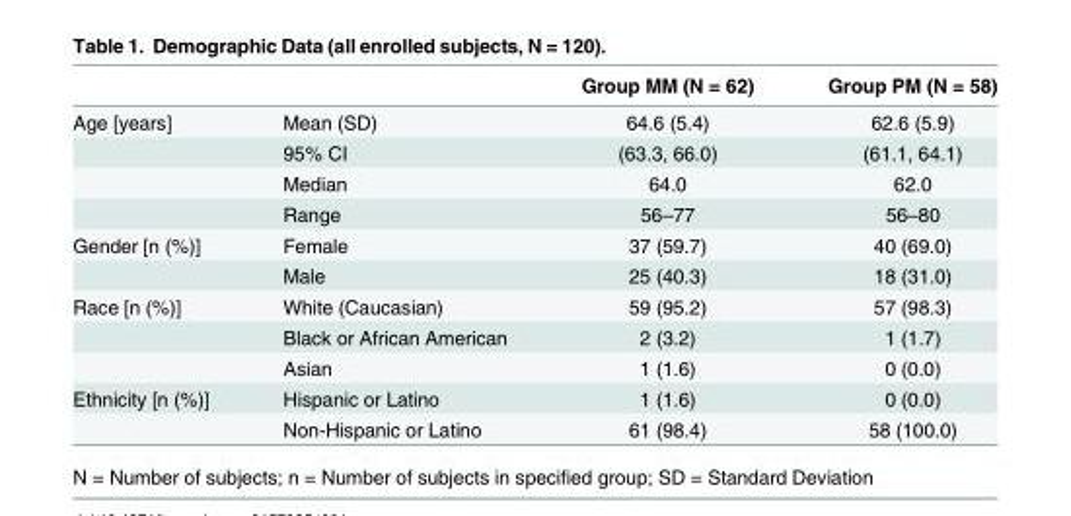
<table><thead><tr><td></td><td></td><td>Group MM (N = 62)</td><td>Group PM (N = 58)</td></tr></thead><tbody><tr><td rowspan="4">Age [years]</td><td>Mean (SD)</td><td>64.6 (5.4)</td><td>62.6 (5.9)</td></tr><tr><td>95% CI</td><td>(63.3, 66.0)</td><td>(61.1, 64.1)</td></tr><tr><td>Median</td><td>64.0</td><td>62.0</td></tr><tr><td>Range</td><td>56–77</td><td>56–80</td></tr><tr><td rowspan="2">Gender [n (%)]</td><td>Female</td><td>37 (59.7)</td><td>40 (69.0)</td></tr><tr><td>Male</td><td>25 (40.3)</td><td>18 (31.0)</td></tr><tr><td rowspan="3">Race [n (%)]</td><td>White (Caucasian)</td><td>59 (95.2)</td><td>57 (98.3)</td></tr><tr><td>Black or African American</td><td>2 (3.2)</td><td>1 (1.7)</td></tr><tr><td>Asian</td><td>1 (1.6)</td><td>0 (0.0)</td></tr><tr><td rowspan="2">Ethnicity [n (%)]</td><td>Hispanic or Latino</td><td>1 (1.6)</td><td>0 (0.0)</td></tr><tr><td>Non-Hispanic or Latino</td><td>61 (98.4)</td><td>58 (100.0)</td></tr></tbody></table>